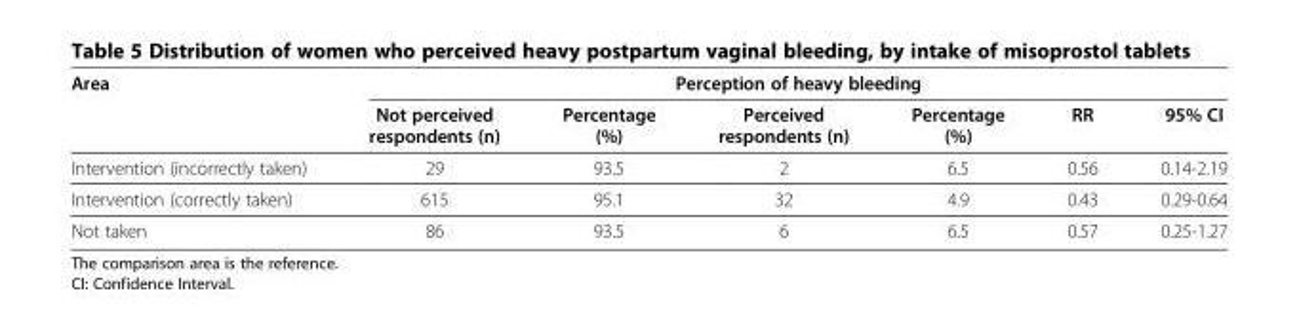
<table><thead><tr><td rowspan="2">Area</td><td colspan="6">Perception of heavy bleeding</td></tr><tr><td>Not perceived respondents (n)</td><td>Percentage (%)</td><td>Perceived respondents (n)</td><td>Percentage (%)</td><td>RR</td><td>95% CI</td></tr></thead><tbody><tr><td>Intervention (incorrectly taken)</td><td>29</td><td>93.5</td><td>2</td><td>6.5</td><td>0.56</td><td>0.14-2.19</td></tr><tr><td>Intervention (correctly taken)</td><td>615</td><td>95.1</td><td>32</td><td>4.9</td><td>0.43</td><td>0.29-0.64</td></tr><tr><td>Not taken</td><td>86</td><td>93.5</td><td>6</td><td>6.5</td><td>0.57</td><td>0.25-1.27</td></tr></tbody></table>